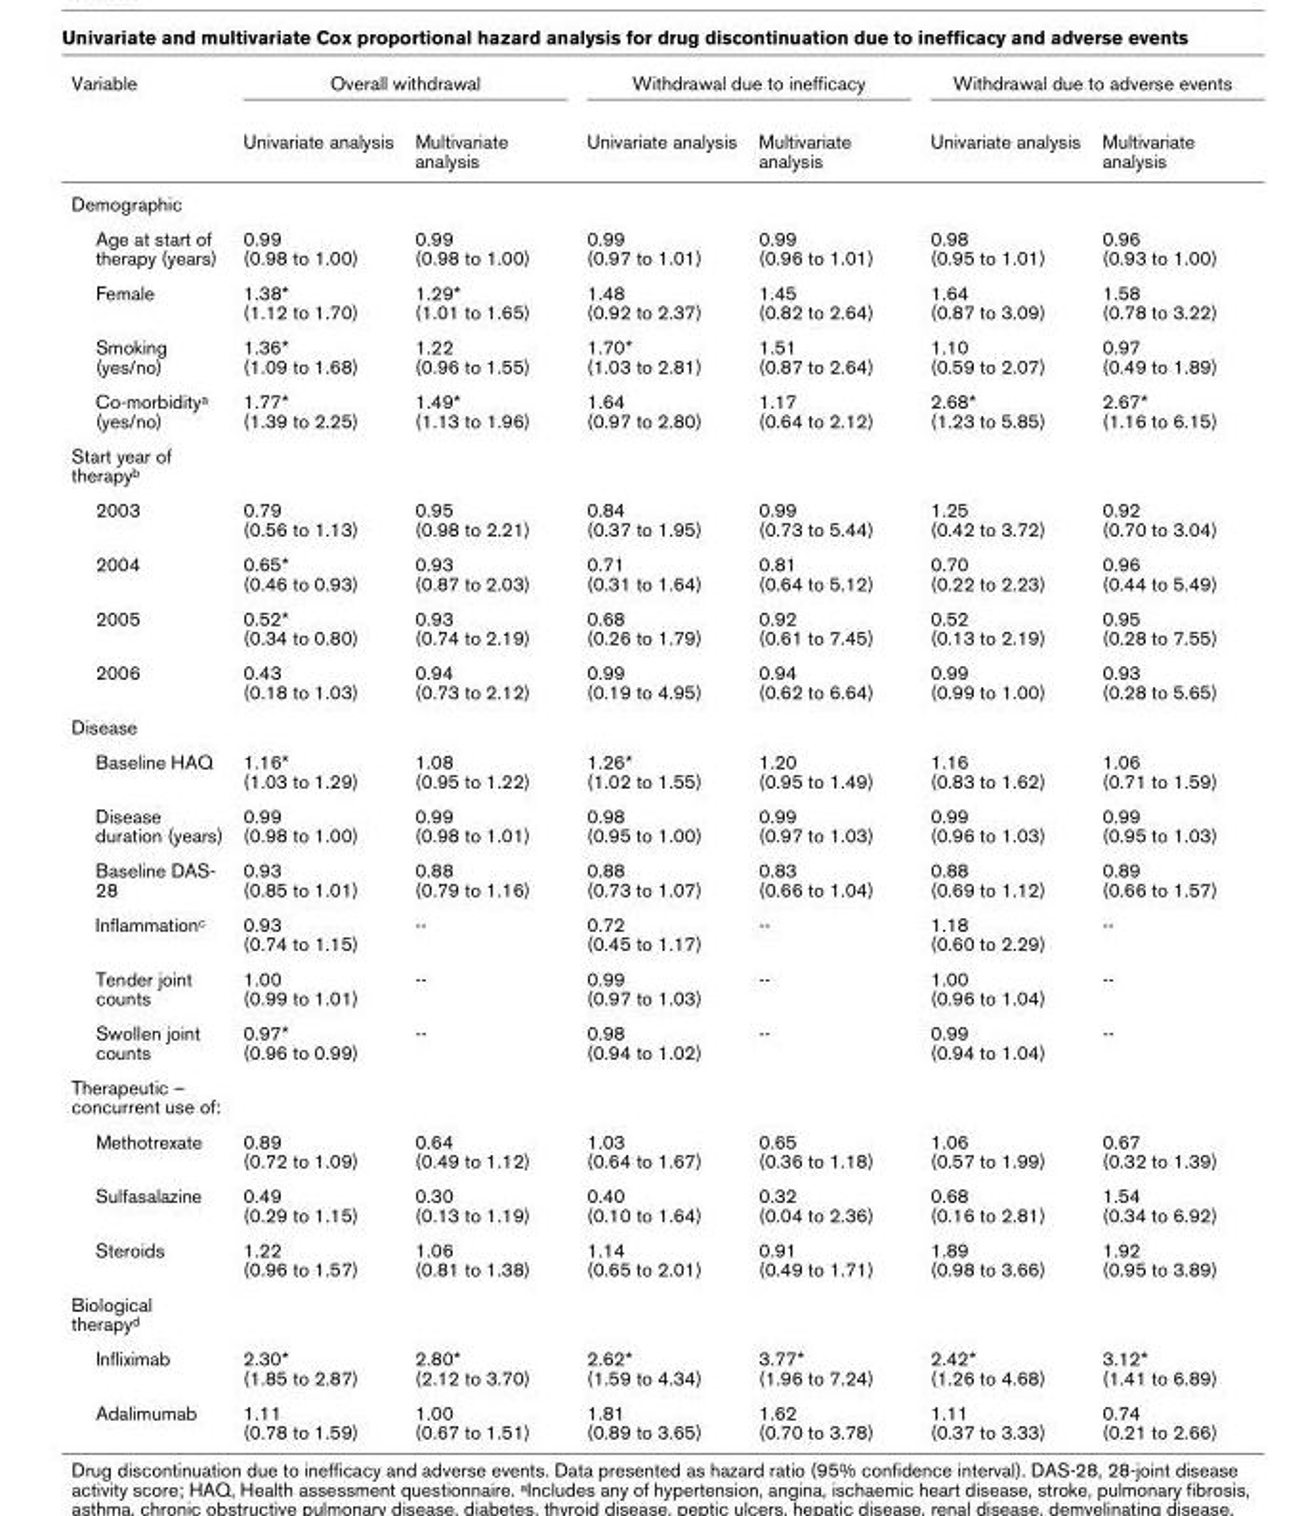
<table><thead><tr><td rowspan="2">Variable</td><td colspan="2">Overall withdrawal</td><td colspan="2">Withdrawal due to inefficacy</td><td colspan="2">Withdrawal due to adverse events</td></tr><tr><td>Univariate analysis</td><td>Multivariate analysis</td><td>Univariate analysis</td><td>Multivariate analysis</td><td>Univariate analysis</td><td>Multivariate analysis</td></tr></thead><tbody><tr><td colspan="7">Demographic</td></tr><tr><td>Age at start of therapy (years)</td><td>0.99 (0.98 to 1.00)</td><td>0.99 (0.98 to 1.00)</td><td>0.99 (0.97 to 1.01)</td><td>0.99 (0.96 to 1.01)</td><td>0.98 (0.95 to 1.01)</td><td>0.96 (0.93 to 1.00)</td></tr><tr><td>Female</td><td>1.38* (1.12 to 1.70)</td><td>1.29* (1.01 to 1.65)</td><td>1.48 (0.92 to 2.37)</td><td>1.45 (0.82 to 2.64)</td><td>1.64 (0.87 to 3.09)</td><td>1.58 (0.78 to 3.22)</td></tr><tr><td>Smoking (yes/no)</td><td>1.36* (1.09 to 1.68)</td><td>1.22 (0.96 to 1.55)</td><td>1.70* (1.03 to 2.81)</td><td>1.51 (0.87 to 2.64)</td><td>1.10 (0.59 to 2.07)</td><td>0.97 (0.49 to 1.89)</td></tr><tr><td>Co-morbidity<sup>a</sup> (yes/no)</td><td>1.77* (1.39 to 2.25)</td><td>1.49* (1.13 to 1.96)</td><td>1.64 (0.97 to 2.80)</td><td>1.17 (0.64 to 2.12)</td><td>2.68* (1.23 to 5.85)</td><td>2.67* (1.16 to 6.15)</td></tr><tr><td colspan="7">Start year of therapy<sup>b</sup></td></tr><tr><td>2003</td><td>0.79 (0.56 to 1.13)</td><td>0.95 (0.98 to 2.21)</td><td>0.84 (0.37 to 1.95)</td><td>0.99 (0.73 to 5.44)</td><td>1.25 (0.42 to 3.72)</td><td>0.92 (0.70 to 3.04)</td></tr><tr><td>2004</td><td>0.65* (0.46 to 0.93)</td><td>0.93 (0.87 to 2.03)</td><td>0.71 (0.31 to 1.64)</td><td>0.81 (0.64 to 5.12)</td><td>0.70 (0.22 to 2.23)</td><td>0.96 (0.44 to 5.49)</td></tr><tr><td>2005</td><td>0.52* (0.34 to 0.80)</td><td>0.93 (0.74 to 2.19)</td><td>0.68 (0.26 to 1.79)</td><td>0.92 (0.61 to 7.45)</td><td>0.52 (0.13 to 2.19)</td><td>0.95 (0.28 to 7.55)</td></tr><tr><td>2006</td><td>0.43 (0.18 to 1.03)</td><td>0.94 (0.73 to 2.12)</td><td>0.99 (0.19 to 4.95)</td><td>0.94 (0.62 to 6.64)</td><td>0.99 (0.99 to 1.00)</td><td>0.93 (0.28 to 5.65)</td></tr><tr><td colspan="7">Disease</td></tr><tr><td>Baseline HAQ</td><td>1.16* (1.03 to 1.29)</td><td>1.08 (0.95 to 1.22)</td><td>1.26* (1.02 to 1.55)</td><td>1.20 (0.95 to 1.49)</td><td>1.16 (0.83 to 1.62)</td><td>1.06 (0.71 to 1.59)</td></tr><tr><td>Disease duration (years)</td><td>0.99 (0.98 to 1.00)</td><td>0.99 (0.98 to 1.01)</td><td>0.98 (0.95 to 1.00)</td><td>0.99 (0.97 to 1.03)</td><td>0.99 (0.96 to 1.03)</td><td>0.99 (0.95 to 1.03)</td></tr><tr><td>Baseline DAS- 28</td><td>0.93 (0.85 to 1.01)</td><td>0.88 (0.79 to 1.16)</td><td>0.88 (0.73 to 1.07)</td><td>0.83 (0.66 to 1.04)</td><td>0.88 (0.69 to 1.12)</td><td>0.89 (0.66 to 1.57)</td></tr><tr><td>Inflammation<sup>c</sup></td><td>0.93 (0.74 to 1.15)</td><td>--</td><td>0.72 (0.45 to 1.17)</td><td>--</td><td>1.18 (0.60 to 2.29)</td><td>--</td></tr><tr><td>Tender joint counts</td><td>1.00 (0.99 to 1.01)</td><td>--</td><td>0.99 (0.97 to 1.03)</td><td>--</td><td>1.00 (0.96 to 1.04)</td><td>--</td></tr><tr><td>Swollen joint counts</td><td>0.97* (0.96 to 0.99)</td><td>--</td><td>0.98 (0.94 to 1.02)</td><td>--</td><td>0.99 (0.94 to 1.04)</td><td>--</td></tr><tr><td colspan="7">Therapeutic – concurrent use of:</td></tr><tr><td>Methotrexate</td><td>0.89 (0.72 to 1.09)</td><td>0.64 (0.49 to 1.12)</td><td>1.03 (0.64 to 1.67)</td><td>0.65 (0.36 to 1.18)</td><td>1.06 (0.57 to 1.99)</td><td>0.67 (0.32 to 1.39)</td></tr><tr><td>Sulfasalazine</td><td>0.49 (0.29 to 1.15)</td><td>0.30 (0.13 to 1.19)</td><td>0.40 (0.10 to 1.64)</td><td>0.32 (0.04 to 2.36)</td><td>0.68 (0.16 to 2.81)</td><td>1.54 (0.34 to 6.92)</td></tr><tr><td>Steroids</td><td>1.22 (0.96 to 1.57)</td><td>1.06 (0.81 to 1.38)</td><td>1.14 (0.65 to 2.01)</td><td>0.91 (0.49 to 1.71)</td><td>1.89 (0.98 to 3.66)</td><td>1.92 (0.95 to 3.89)</td></tr><tr><td colspan="7">Biological therapy<sup>d</sup></td></tr><tr><td>Infliximab</td><td>2.30* (1.85 to 2.87)</td><td>2.80* (2.12 to 3.70)</td><td>2.62* (1.59 to 4.34)</td><td>3.77* (1.96 to 7.24)</td><td>2.42* (1.26 to 4.68)</td><td>3.12* (1.41 to 6.89)</td></tr><tr><td>Adalimumab</td><td>1.11 (0.78 to 1.59)</td><td>1.00 (0.67 to 1.51)</td><td>1.81 (0.89 to 3.65)</td><td>1.62 (0.70 to 3.78)</td><td>1.11 (0.37 to 3.33)</td><td>0.74 (0.21 to 2.66)</td></tr></tbody></table>